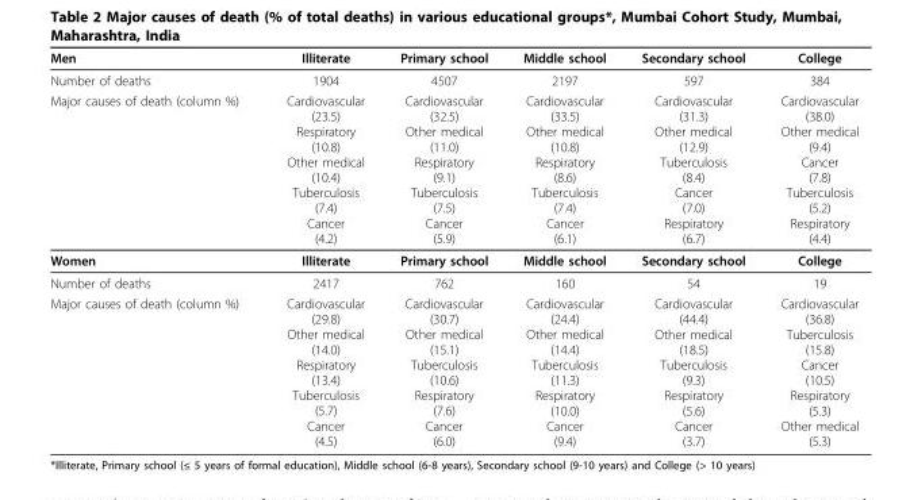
<table><thead><tr><td>Men</td><td>Illiterate</td><td>Primary school</td><td>Middle school</td><td>Secondary school</td><td>College</td></tr></thead><tbody><tr><td>Number of deaths</td><td>1904</td><td>4507</td><td>2197</td><td>597</td><td>384</td></tr><tr><td>Major causes of death (column %)</td><td>Cardiovascular (23.5) Respiratory (10.8) Other medical (10.4) Tuberculosis (7.4) Cancer (4.2)</td><td>Cardiovascular (32.5) Other medical (11.0) Respiratory (9.1) Tuberculosis (7.5) Cancer (5.9)</td><td>Cardiovascular (33.5) Other medical (10.8) Respiratory (8.6) Tuberculosis (7.4) Cancer (6.1)</td><td>Cardiovascular (31.3) Other medical (12.9) Tuberculosis (8.4) Cancer (7.0) Respiratory (6.7)</td><td>Cardiovascular (38.0) Other medical (9.4) Cancer (7.8) Tuberculosis (5.2) Respiratory (4.4)</td></tr><tr><td>Women</td><td>Illiterate</td><td>Primary school</td><td>Middle school</td><td>Secondary school</td><td>College</td></tr><tr><td>Number of deaths</td><td>2417</td><td>762</td><td>160</td><td>54</td><td>19</td></tr><tr><td>Major causes of death (column %)</td><td>Cardiovascular (29.8) Other medical (14.0) Respiratory (13.4) Tuberculosis (5.7) Cancer (4.5)</td><td>Cardiovascular (30.7) Other medical (15.1) Tuberculosis (10.6) Respiratory (7.6) Cancer (6.0)</td><td>Cardiovascular (24.4) Other medical (14.4) Tuberculosis (11.3) Respiratory (10.0) Cancer (9.4)</td><td>Cardiovascular (44.4) Other medical (18.5) Tuberculosis (9.3) Respiratory (5.6) Cancer (3.7)</td><td>Cardiovascular (36.8) Tuberculosis (15.8) Cancer (10.5) Respiratory (5.3) Other medical (5.3)</td></tr></tbody></table>